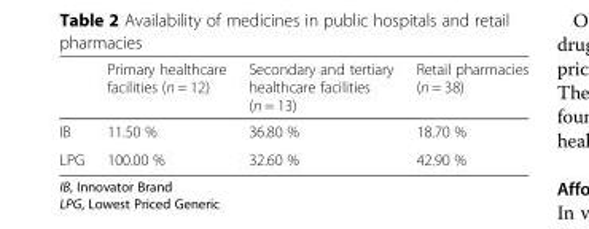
<table><thead><tr><td></td><td>Primary healthcare facilities (n = 12)</td><td>Secondary and tertiary healthcare facilities (n = 13)</td><td>Retail pharmacies (n = 38)</td></tr></thead><tbody><tr><td>IB</td><td>11.50 %</td><td>36.80 %</td><td>18.70 %</td></tr><tr><td>LPG</td><td>100.00 %</td><td>32.60 %</td><td>42.90 %</td></tr></tbody></table>